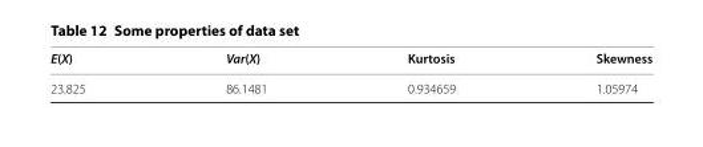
<table><thead><tr><td>E(X)</td><td>Var(X)</td><td>Kurtosis</td><td>Skewness</td></tr></thead><tbody><tr><td>23.825</td><td>86.1481</td><td>0.934659</td><td>1.05974</td></tr></tbody></table>